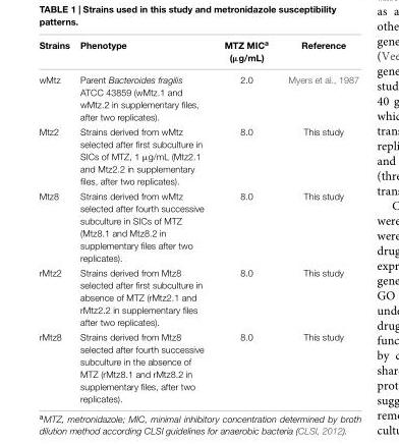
<table><thead><tr><td>Strains</td><td>Phenotype</td><td>MTZ MIC<sup>a</sup> (µg/mL)</td><td>Reference</td></tr></thead><tbody><tr><td>wMtz</td><td>Parent Bacteroides fragilis ATCC 43859 (wMtz.1 and wMtz.2 in supplementary files, after two replicates).</td><td>2.0</td><td>Myers et al., 1987</td></tr><tr><td>Mtz2</td><td>Strains derived from wMtz selected after first subculture in SICs of MTZ, 1 µg/mL (Mtz2.1 and Mtz2.2 in supplementary files, after two replicates).</td><td>8.0</td><td>This study</td></tr><tr><td>Mtz8</td><td>Strains derived from wMtz selected after fourth successive subculture in SICs of MTZ (Mtz8.1 and Mtz8.2 in supplementary files after two replicates).</td><td>8.0</td><td>This study</td></tr><tr><td>rMtz2</td><td>Strains derived from Mtz8 selected after first subculture in absence of MTZ (rMtz2.1 and rMtz2.2 in supplementary files after two replicates).</td><td>8.0</td><td>This study</td></tr><tr><td>rMtz8</td><td>Strains derived from Mtz8 selected after fourth successive subculture in the absence of MTZ (rMtz8.1 and rMtz8.2 in supplementary files, after two replicates).</td><td>8.0</td><td>This study</td></tr></tbody></table>